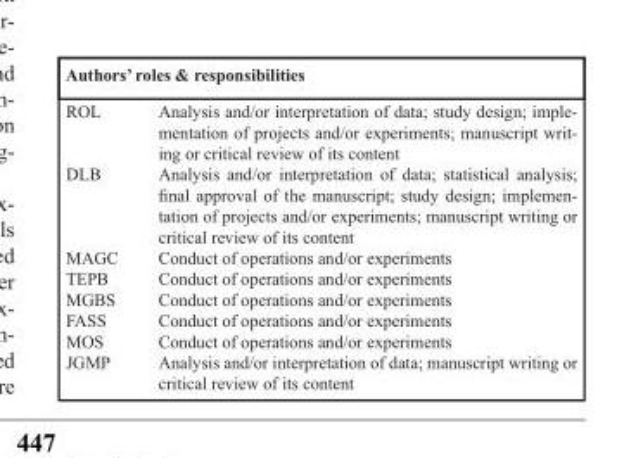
<table><thead><tr><td colspan="2">Authors’ roles &amp; responsibilities</td></tr><tr><td>ROL</td><td>Analysis and/or interpretation of data; study design; imple- mentation of projects and/or experiments; manuscript writ- ing or critical review of its content</td></tr></thead><tbody><tr><td>DLB</td><td>Analysis and/or interpretation of data; statistical analysis; final approval of the manuscript; study design; implemen- tation of projects and/or experiments; manuscript writing or critical review of its content</td></tr><tr><td>MAGC</td><td>Conduct of operations and/or experiments</td></tr><tr><td>TEPB</td><td>Conduct of operations and/or experiments</td></tr><tr><td>MGBS</td><td>Conduct of operations and/or experiments</td></tr><tr><td>FASS</td><td>Conduct of operations and/or experiments</td></tr><tr><td>MOS</td><td>Conduct of operations and/or experiments</td></tr><tr><td>JGMP</td><td>Analysis and/or interpretation of data; manuscript writing or critical review of its content</td></tr></tbody></table>